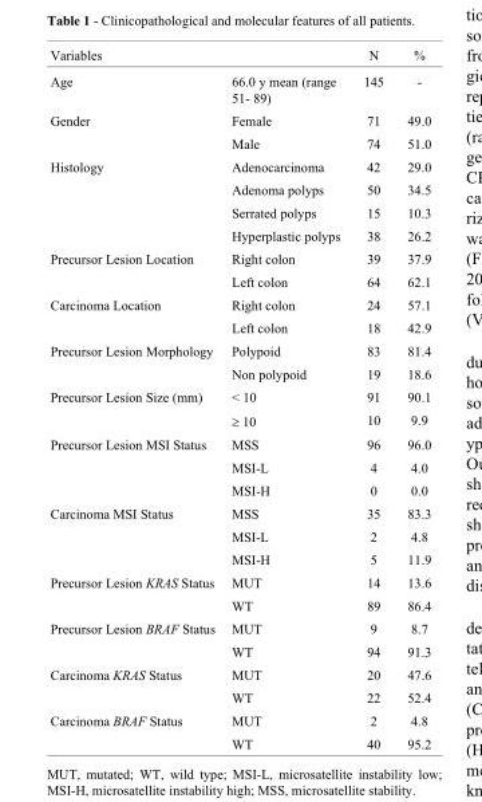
<table><thead><tr><td>Variables</td><td></td><td>N</td><td>%</td></tr></thead><tbody><tr><td>Age</td><td>66.0 y mean (range 51- 89)</td><td>145</td><td>-</td></tr><tr><td rowspan="2">Gender</td><td>Female</td><td>71</td><td>49.0</td></tr><tr><td>Male</td><td>74</td><td>51.0</td></tr><tr><td rowspan="4">Histology</td><td>Adenocarcinoma</td><td>42</td><td>29.0</td></tr><tr><td>Adenoma polyps</td><td>50</td><td>34.5</td></tr><tr><td>Serrated polyps</td><td>15</td><td>10.3</td></tr><tr><td>Hyperplastic polyps</td><td>38</td><td>26.2</td></tr><tr><td rowspan="2">Precursor Lesion Location</td><td>Right colon</td><td>39</td><td>37.9</td></tr><tr><td>Left colon</td><td>64</td><td>62.1</td></tr><tr><td rowspan="2">Carcinoma Location</td><td>Right colon</td><td>24</td><td>57.1</td></tr><tr><td>Left colon</td><td>18</td><td>42.9</td></tr><tr><td rowspan="2">Precursor Lesion Morphology</td><td>Polypoid</td><td>83</td><td>81.4</td></tr><tr><td>Non polypoid</td><td>19</td><td>18.6</td></tr><tr><td rowspan="2">Precursor Lesion Size (mm)</td><td>&lt; 10</td><td>91</td><td>90.1</td></tr><tr><td>≥ 10</td><td>10</td><td>9.9</td></tr><tr><td rowspan="3">Precursor Lesion MSI Status</td><td>MSS</td><td>96</td><td>96.0</td></tr><tr><td>MSI-L</td><td>4</td><td>4.0</td></tr><tr><td>MSI-H</td><td>0</td><td>0.0</td></tr><tr><td rowspan="3">Carcinoma MSI Status</td><td>MSS</td><td>35</td><td>83.3</td></tr><tr><td>MSI-L</td><td>2</td><td>4.8</td></tr><tr><td>MSI-H</td><td>5</td><td>11.9</td></tr><tr><td rowspan="2">Precursor Lesion KRAS Status</td><td>MUT</td><td>14</td><td>13.6</td></tr><tr><td>WT</td><td>89</td><td>86.4</td></tr><tr><td rowspan="2">Precursor Lesion BRAF Status</td><td>MUT</td><td>9</td><td>8.7</td></tr><tr><td>WT</td><td>94</td><td>91.3</td></tr><tr><td rowspan="2">Carcinoma KRAS Status</td><td>MUT</td><td>20</td><td>47.6</td></tr><tr><td>WT</td><td>22</td><td>52.4</td></tr><tr><td rowspan="2">Carcinoma BRAF Status</td><td>MUT</td><td>2</td><td>4.8</td></tr><tr><td>WT</td><td>40</td><td>95.2</td></tr></tbody></table>